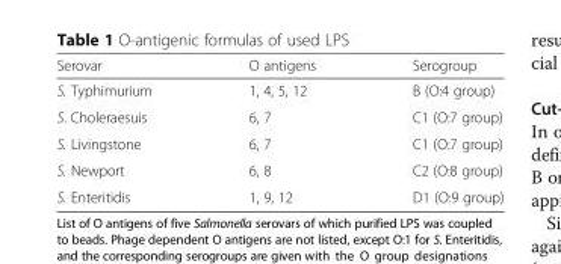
<table><thead><tr><td>Serovar</td><td>O antigens</td><td>Serogroup</td></tr></thead><tbody><tr><td>S. Typhimurium</td><td>1, 4, 5, 12</td><td>B (O:4 group)</td></tr><tr><td>S. Choleraesuis</td><td>6, 7</td><td>C1 (O:7 group)</td></tr><tr><td>S. Livingstone</td><td>6, 7</td><td>C1 (O:7 group)</td></tr><tr><td>S. Newport</td><td>6, 8</td><td>C2 (O:8 group)</td></tr><tr><td>S. Enteritidis</td><td>1, 9, 12</td><td>D1 (O:9 group)</td></tr></tbody></table>